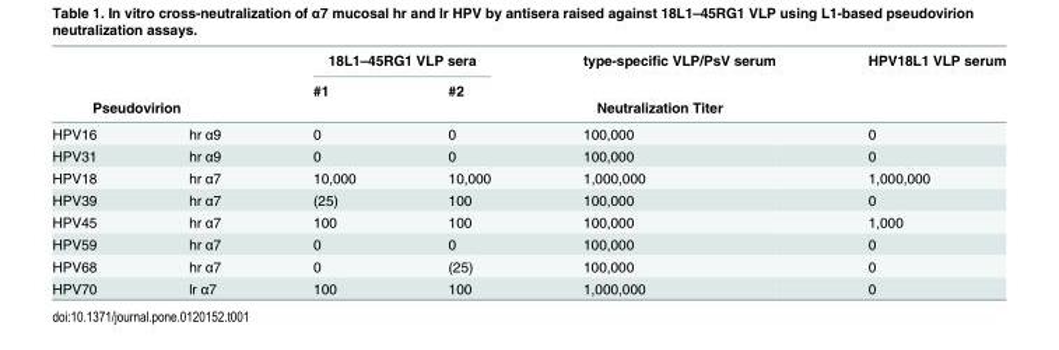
<table><thead><tr><td rowspan="2"></td><td rowspan="2"></td><td colspan="2">18L1–45RG1 VLP sera</td><td rowspan="2">type-specific VLP/PsV serum</td><td rowspan="2">HPV18L1 VLP serum</td></tr><tr><td>#1</td><td>#2</td></tr><tr><td colspan="2">Pseudovirion</td><td colspan="4">Neutralization Titer</td></tr></thead><tbody><tr><td>HPV16</td><td>hr α9</td><td>0</td><td>0</td><td>100,000</td><td>0</td></tr><tr><td>HPV31</td><td>hr α9</td><td>0</td><td>0</td><td>100,000</td><td>0</td></tr><tr><td>HPV18</td><td>hr α7</td><td>10,000</td><td>10,000</td><td>1,000,000</td><td>1,000,000</td></tr><tr><td>HPV39</td><td>hr α7</td><td>(25)</td><td>100</td><td>100,000</td><td>0</td></tr><tr><td>HPV45</td><td>hr α7</td><td>100</td><td>100</td><td>100,000</td><td>1,000</td></tr><tr><td>HPV59</td><td>hr α7</td><td>0</td><td>0</td><td>100,000</td><td>0</td></tr><tr><td>HPV68</td><td>hr α7</td><td>0</td><td>(25)</td><td>100,000</td><td>0</td></tr><tr><td>HPV70</td><td>lr α7</td><td>100</td><td>100</td><td>1,000,000</td><td>0</td></tr></tbody></table>